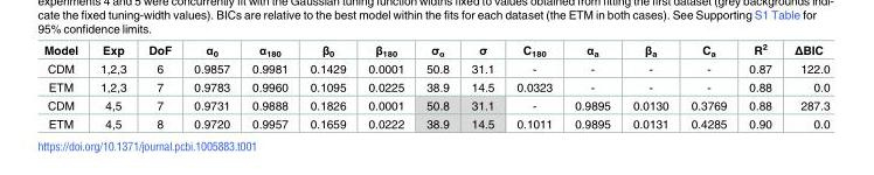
<table><thead><tr><td>Model</td><td>Exp</td><td>DoF</td><td>α<sub>0</sub></td><td>α<sub>180</sub></td><td>β<sub>0</sub></td><td>β<sub>180</sub></td><td>σ<sub>α</sub></td><td>σ</td><td>C<sub>180</sub></td><td>α<sub>a</sub></td><td>β<sub>a</sub></td><td>C<sub>a</sub></td><td>R<sup>2</sup></td><td>ΔBIC</td></tr></thead><tbody><tr><td>CDM</td><td>1,2,3</td><td>6</td><td>0.9857</td><td>0.9981</td><td>0.1429</td><td>0.0001</td><td>50.8</td><td>31.1</td><td>-</td><td>-</td><td>-</td><td>-</td><td>0.87</td><td>122.0</td></tr><tr><td>ETM</td><td>1,2,3</td><td>7</td><td>0.9783</td><td>0.9960</td><td>0.1095</td><td>0.0225</td><td>38.9</td><td>14.5</td><td>0.0323</td><td>-</td><td>-</td><td>-</td><td>0.88</td><td>0.0</td></tr><tr><td>CDM</td><td>4,5</td><td>7</td><td>0.9731</td><td>0.9888</td><td>0.1826</td><td>0.0001</td><td>50.8</td><td>31.1</td><td>-</td><td>0.9895</td><td>0.0130</td><td>0.3769</td><td>0.88</td><td>287.3</td></tr><tr><td>ETM</td><td>4,5</td><td>8</td><td>0.9720</td><td>0.9957</td><td>0.1659</td><td>0.0222</td><td>38.9</td><td>14.5</td><td>0.1011</td><td>0.9895</td><td>0.0131</td><td>0.4285</td><td>0.90</td><td>0.0</td></tr></tbody></table>